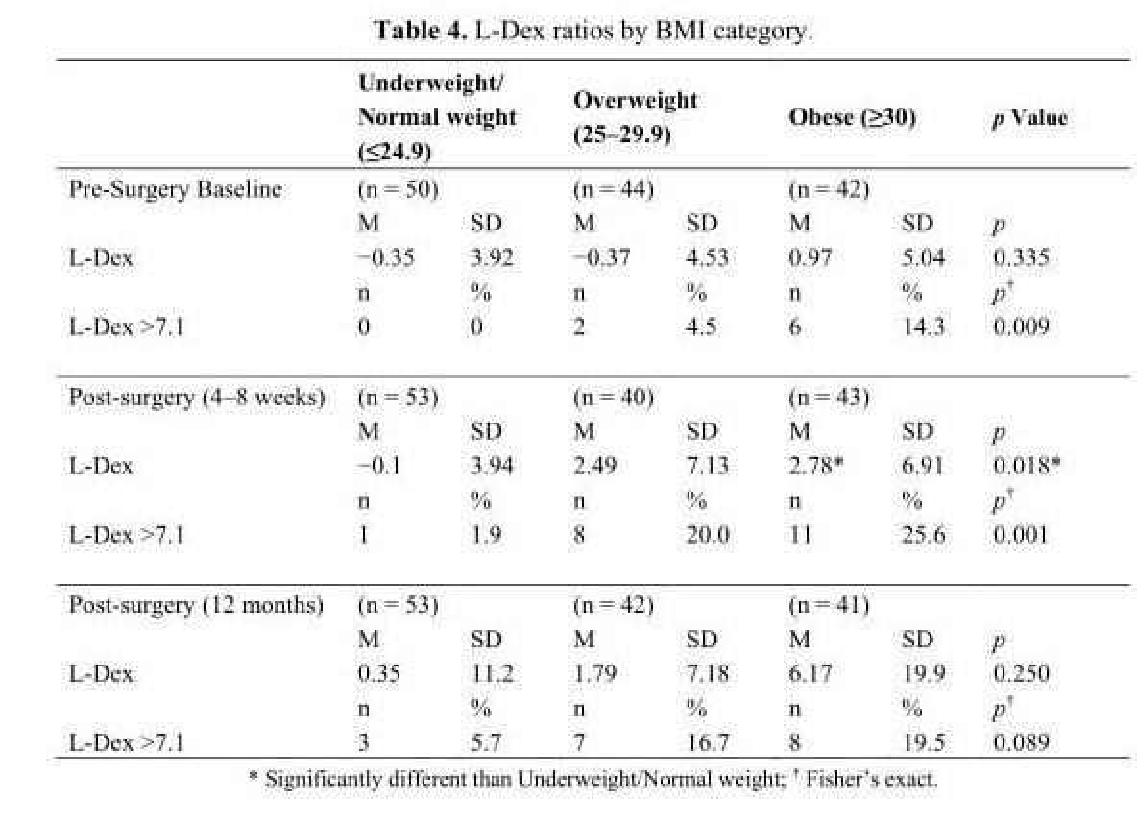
<table><thead><tr><td rowspan="2">Pre-Surgery Baseline</td><td colspan="2">Underweight/ Normal weight (≤24.9)</td><td colspan="2">Overweight (25–29.9)</td><td colspan="2">Obese (≥30)</td><td rowspan="2">p Value</td></tr><tr><td>(n = 50)</td><td></td><td>(n = 44)</td><td></td><td>(n = 42)</td><td></td></tr></thead><tbody><tr><td></td><td>M</td><td>SD</td><td>M</td><td>SD</td><td>M</td><td>SD</td><td>p</td></tr><tr><td rowspan="2">L-Dex</td><td>−0.35</td><td>3.92</td><td>−0.37</td><td>4.53</td><td>0.97</td><td>5.04</td><td>0.335</td></tr><tr><td>n</td><td>%</td><td>n</td><td>%</td><td>n</td><td>%</td><td>p<sup>†</sup></td></tr><tr><td>L-Dex &gt;7.1</td><td>0</td><td>0</td><td>2</td><td>4.5</td><td>6</td><td>14.3</td><td>0.009</td></tr><tr><td rowspan="2">Post-surgery (4–8 weeks)</td><td>(n = 53)</td><td></td><td>(n = 40)</td><td></td><td>(n = 43)</td><td></td><td></td></tr><tr><td>M</td><td>SD</td><td>M</td><td>SD</td><td>M</td><td>SD</td><td>p</td></tr><tr><td rowspan="2">L-Dex</td><td>−0.1</td><td>3.94</td><td>2.49</td><td>7.13</td><td>2.78*</td><td>6.91</td><td>0.018*</td></tr><tr><td>n</td><td>%</td><td>n</td><td>%</td><td>n</td><td>%</td><td>p<sup>†</sup></td></tr><tr><td>L-Dex &gt;7.1</td><td>1</td><td>1.9</td><td>8</td><td>20.0</td><td>11</td><td>25.6</td><td>0.001</td></tr><tr><td rowspan="2">Post-surgery (12 months)</td><td>(n = 53)</td><td></td><td>(n = 42)</td><td></td><td>(n = 41)</td><td></td><td></td></tr><tr><td>M</td><td>SD</td><td>M</td><td>SD</td><td>M</td><td>SD</td><td>p</td></tr><tr><td rowspan="2">L-Dex</td><td>0.35</td><td>11.2</td><td>1.79</td><td>7.18</td><td>6.17</td><td>19.9</td><td>0.250</td></tr><tr><td>n</td><td>%</td><td>n</td><td>%</td><td>n</td><td>%</td><td>p<sup>†</sup></td></tr><tr><td>L-Dex &gt;7.1</td><td>3</td><td>5.7</td><td>7</td><td>16.7</td><td>8</td><td>19.5</td><td>0.089</td></tr></tbody></table>